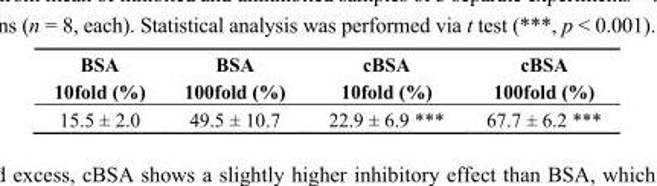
<table><thead><tr><td>BSA 10fold (%)</td><td>BSA 100fold (%)</td><td>cBSA 10fold (%)</td><td>cBSA 100fold (%)</td></tr></thead><tbody><tr><td>15.5 ± 2.0</td><td>49.5 ± 10.7</td><td>22.9 ± 6.9 ***</td><td>67.7 ± 6.2 ***</td></tr></tbody></table>